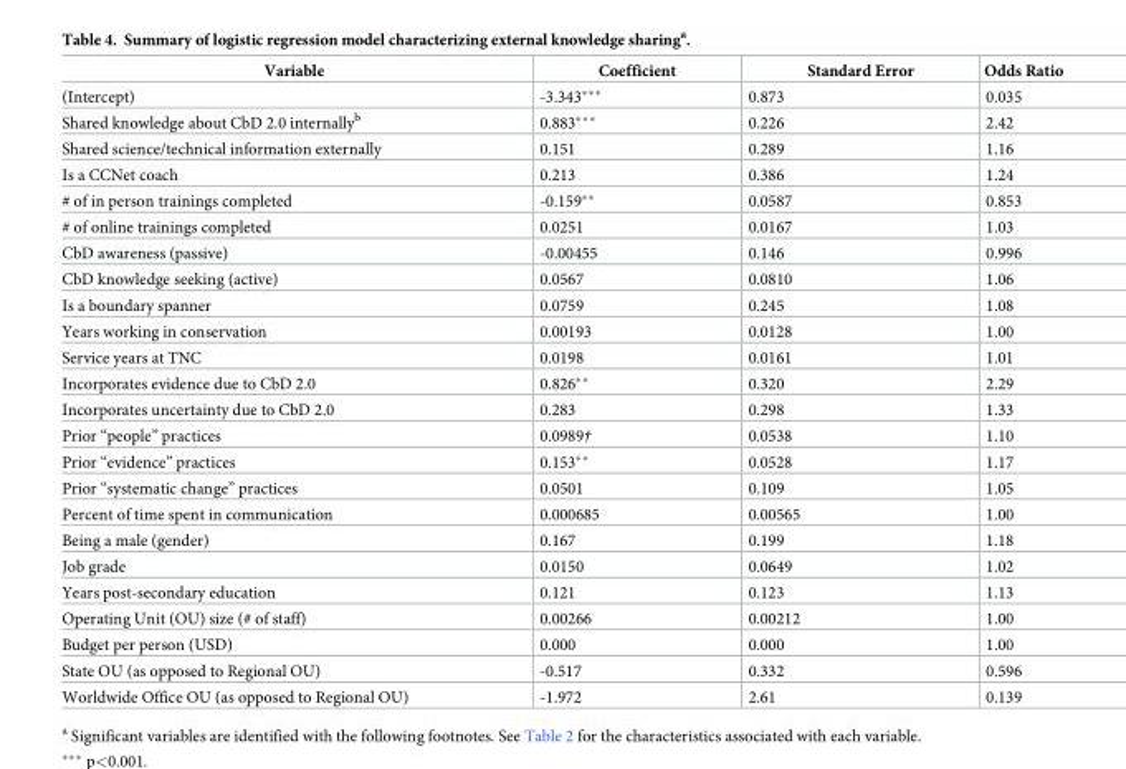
<table><thead><tr><td>Variable</td><td>Coefficient</td><td>Standard Error</td><td>Odds Ratio</td></tr></thead><tbody><tr><td>(Intercept)</td><td>-3.343***</td><td>0.873</td><td>0.035</td></tr><tr><td>Shared knowledge about CbD 2.0 internally<sup>b</sup></td><td>0.883***</td><td>0.226</td><td>2.42</td></tr><tr><td>Shared science/technical information externally</td><td>0.151</td><td>0.289</td><td>1.16</td></tr><tr><td>Is a CCNet coach</td><td>0.213</td><td>0.386</td><td>1.24</td></tr><tr><td># of in person trainings completed</td><td>-0.159**</td><td>0.0587</td><td>0.853</td></tr><tr><td># of online trainings completed</td><td>0.0251</td><td>0.0167</td><td>1.03</td></tr><tr><td>CbD awareness (passive)</td><td>-0.00455</td><td>0.146</td><td>0.996</td></tr><tr><td>CbD knowledge seeking (active)</td><td>0.0567</td><td>0.0810</td><td>1.06</td></tr><tr><td>Is a boundary spanner</td><td>0.0759</td><td>0.245</td><td>1.08</td></tr><tr><td>Years working in conservation</td><td>0.00193</td><td>0.0128</td><td>1.00</td></tr><tr><td>Service years at TNC</td><td>0.0198</td><td>0.0161</td><td>1.01</td></tr><tr><td>Incorporates evidence due to CbD 2.0</td><td>0.826**</td><td>0.320</td><td>2.29</td></tr><tr><td>Incorporates uncertainty due to CbD 2.0</td><td>0.283</td><td>0.298</td><td>1.33</td></tr><tr><td>Prior “people” practices</td><td>0.0989†</td><td>0.0538</td><td>1.10</td></tr><tr><td>Prior “evidence” practices</td><td>0.153**</td><td>0.0528</td><td>1.17</td></tr><tr><td>Prior “systematic change” practices</td><td>0.0501</td><td>0.109</td><td>1.05</td></tr><tr><td>Percent of time spent in communication</td><td>0.000685</td><td>0.00565</td><td>1.00</td></tr><tr><td>Being a male (gender)</td><td>0.167</td><td>0.199</td><td>1.18</td></tr><tr><td>Job grade</td><td>0.0150</td><td>0.0649</td><td>1.02</td></tr><tr><td>Years post-secondary education</td><td>0.121</td><td>0.123</td><td>1.13</td></tr><tr><td>Operating Unit (OU) size (# of staff)</td><td>0.00266</td><td>0.00212</td><td>1.00</td></tr><tr><td>Budget per person (USD)</td><td>0.000</td><td>0.000</td><td>1.00</td></tr><tr><td>State OU (as opposed to Regional OU)</td><td>-0.517</td><td>0.332</td><td>0.596</td></tr><tr><td>Worldwide Office OU (as opposed to Regional OU)</td><td>-1.972</td><td>2.61</td><td>0.139</td></tr></tbody></table>